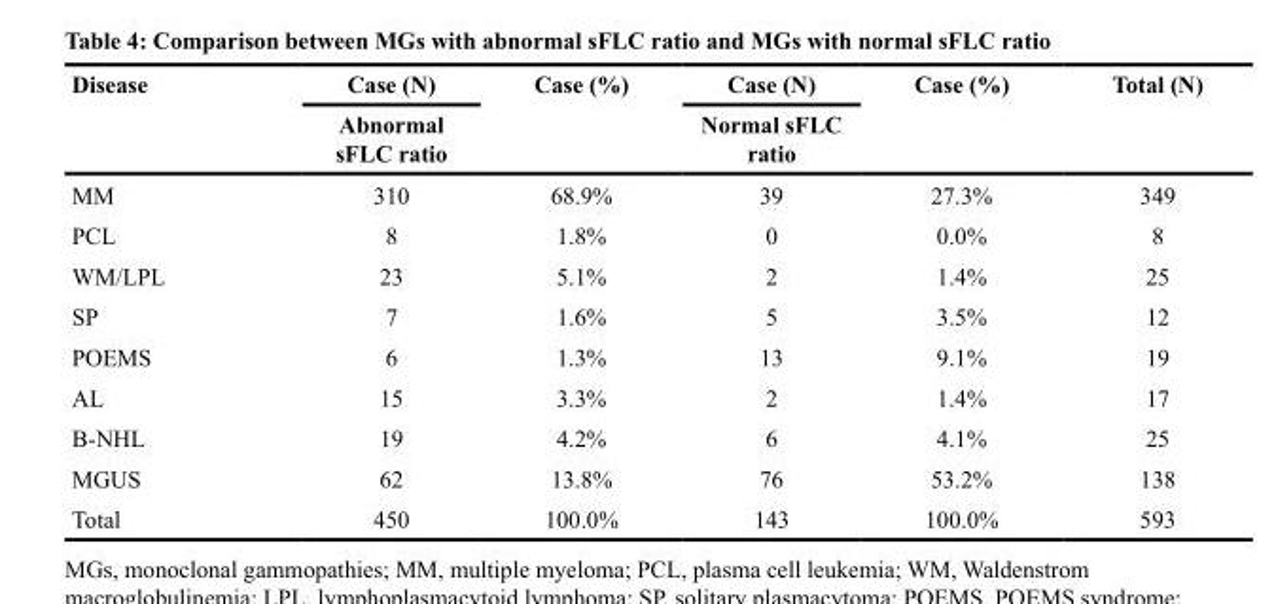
<table><thead><tr><td rowspan="2">Disease</td><td rowspan="2">Case (N) Abnormal sFLC ratio</td><td rowspan="2">Case (%)</td><td rowspan="2">Case (N) Normal sFLC ratio</td><td rowspan="2">Case (%)</td><td rowspan="2">Total (N)</td></tr><tr></tr></thead><tbody><tr><td>MM</td><td>310</td><td>68.9%</td><td>39</td><td>27.3%</td><td>349</td></tr><tr><td>PCL</td><td>8</td><td>1.8%</td><td>0</td><td>0.0%</td><td>8</td></tr><tr><td>WM/LPL</td><td>23</td><td>5.1%</td><td>2</td><td>1.4%</td><td>25</td></tr><tr><td>SP</td><td>7</td><td>1.6%</td><td>5</td><td>3.5%</td><td>12</td></tr><tr><td>POEMS</td><td>6</td><td>1.3%</td><td>13</td><td>9.1%</td><td>19</td></tr><tr><td>AL</td><td>15</td><td>3.3%</td><td>2</td><td>1.4%</td><td>17</td></tr><tr><td>B-NHL</td><td>19</td><td>4.2%</td><td>6</td><td>4.1%</td><td>25</td></tr><tr><td>MGUS</td><td>62</td><td>13.8%</td><td>76</td><td>53.2%</td><td>138</td></tr><tr><td>Total</td><td>450</td><td>100.0%</td><td>143</td><td>100.0%</td><td>593</td></tr></tbody></table>